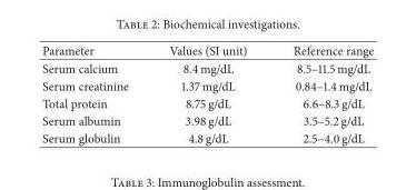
<table><thead><tr><td>Parameter</td><td>Values (SI unit)</td><td>Reference range</td></tr></thead><tbody><tr><td>Serum calcium</td><td>8.4 mg/dL</td><td>8.5–11.5 mg/dL</td></tr><tr><td>Serum creatinine</td><td>1.37 mg/dL</td><td>0.84–1.4 mg/dL</td></tr><tr><td>Total protein</td><td>8.75 g/dL</td><td>6.6–8.3 g/dL</td></tr><tr><td>Serum albumin</td><td>3.98 g/dL</td><td>3.5–5.2 g/dL</td></tr><tr><td>Serum globulin</td><td>4.8 g/dL</td><td>2.5–4.0 g/dL</td></tr></tbody></table>